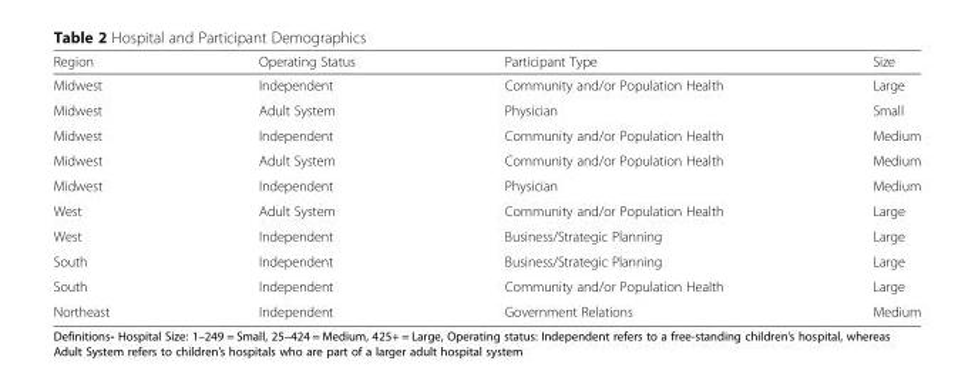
<table><thead><tr><td>Region</td><td>Operating Status</td><td>Participant Type</td><td>Size</td></tr></thead><tbody><tr><td>Midwest</td><td>Independent</td><td>Community and/or Population Health</td><td>Large</td></tr><tr><td>Midwest</td><td>Adult System</td><td>Physician</td><td>Small</td></tr><tr><td>Midwest</td><td>Independent</td><td>Community and/or Population Health</td><td>Medium</td></tr><tr><td>Midwest</td><td>Adult System</td><td>Community and/or Population Health</td><td>Medium</td></tr><tr><td>Midwest</td><td>Independent</td><td>Physician</td><td>Medium</td></tr><tr><td>West</td><td>Adult System</td><td>Community and/or Population Health</td><td>Large</td></tr><tr><td>West</td><td>Independent</td><td>Business/Strategic Planning</td><td>Large</td></tr><tr><td>South</td><td>Independent</td><td>Business/Strategic Planning</td><td>Large</td></tr><tr><td>South</td><td>Independent</td><td>Community and/or Population Health</td><td>Large</td></tr><tr><td>Northeast</td><td>Independent</td><td>Government Relations</td><td>Medium</td></tr></tbody></table>